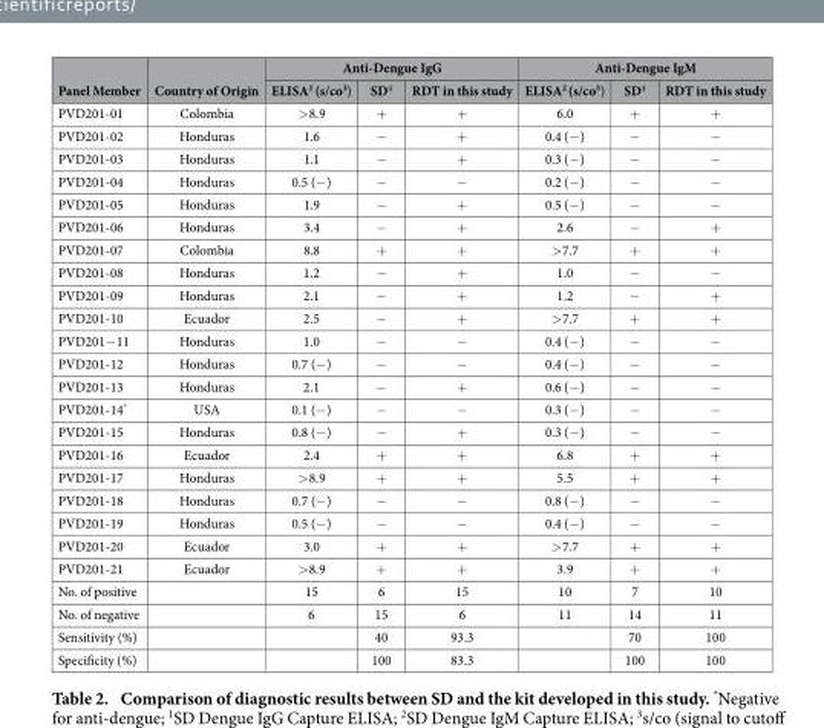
<table><thead><tr><td rowspan="2">Panel Member</td><td rowspan="2">Country of Origin</td><td colspan="3">Anti-Dengue IgG</td><td colspan="3">Anti-Dengue IgM</td></tr><tr><td>ELISA<sup>1</sup> (s/co<sup>3</sup>)</td><td>SD<sup>4</sup></td><td>RDT in this study</td><td>ELISA<sup>2</sup> (s/co<sup>3</sup>)</td><td>SD<sup>4</sup></td><td>RDT in this study</td></tr></thead><tbody><tr><td>PVD201-01</td><td>Colombia</td><td>&gt; 8.9</td><td>+</td><td>+</td><td>6.0</td><td>+</td><td>+</td></tr><tr><td>PVD201-02</td><td>Honduras</td><td>1.6</td><td>−</td><td>+</td><td>0.4 (− )</td><td>−</td><td>−</td></tr><tr><td>PVD201-03</td><td>Honduras</td><td>1.1</td><td>−</td><td>+</td><td>0.3 (− )</td><td>−</td><td>−</td></tr><tr><td>PVD201-04</td><td>Honduras</td><td>0.5 (− )</td><td>−</td><td>−</td><td>0.2 (− )</td><td>−</td><td>−</td></tr><tr><td>PVD201-05</td><td>Honduras</td><td>1.9</td><td>−</td><td>+</td><td>0.5 (− )</td><td>−</td><td>−</td></tr><tr><td>PVD201-06</td><td>Honduras</td><td>3.4</td><td>−</td><td>+</td><td>2.6</td><td>−</td><td>+</td></tr><tr><td>PVD201-07</td><td>Colombia</td><td>8.8</td><td>+</td><td>+</td><td>&gt; 7.7</td><td>+</td><td>+</td></tr><tr><td>PVD201-08</td><td>Honduras</td><td>1.2</td><td>−</td><td>+</td><td>1.0</td><td>−</td><td>−</td></tr><tr><td>PVD201-09</td><td>Honduras</td><td>2.1</td><td>−</td><td>+</td><td>1.2</td><td>−</td><td>+</td></tr><tr><td>PVD201-10</td><td>Ecuador</td><td>2.5</td><td>−</td><td>+</td><td>&gt; 7.7</td><td>+</td><td>+</td></tr><tr><td>PVD201− 11</td><td>Honduras</td><td>1.0</td><td>−</td><td>−</td><td>0.4 (− )</td><td>−</td><td>−</td></tr><tr><td>PVD201-12</td><td>Honduras</td><td>0.7 (− )</td><td>−</td><td>−</td><td>0.4 (− )</td><td>−</td><td>−</td></tr><tr><td>PVD201-13</td><td>Honduras</td><td>2.1</td><td>−</td><td>+</td><td>0.6 (− )</td><td>−</td><td>−</td></tr><tr><td>PVD201-14*</td><td>USA</td><td>0.1 (− )</td><td>−</td><td>−</td><td>0.3 (− )</td><td>−</td><td>−</td></tr><tr><td>PVD201-15</td><td>Honduras</td><td>0.8 (− )</td><td>−</td><td>+</td><td>0.3 (− )</td><td>−</td><td>−</td></tr><tr><td>PVD201-16</td><td>Ecuador</td><td>2.4</td><td>+</td><td>+</td><td>6.8</td><td>+</td><td>+</td></tr><tr><td>PVD201-17</td><td>Honduras</td><td>&gt; 8.9</td><td>+</td><td>+</td><td>5.5</td><td>+</td><td>+</td></tr><tr><td>PVD201-18</td><td>Honduras</td><td>0.7 (− )</td><td>−</td><td>−</td><td>0.8 (− )</td><td>−</td><td>−</td></tr><tr><td>PVD201-19</td><td>Honduras</td><td>0.5 (− )</td><td>−</td><td>−</td><td>0.4 (− )</td><td>−</td><td>−</td></tr><tr><td>PVD201-20</td><td>Ecuador</td><td>3.0</td><td>+</td><td>+</td><td>&gt; 7.7</td><td>+</td><td>+</td></tr><tr><td>PVD201-21</td><td>Ecuador</td><td>&gt; 8.9</td><td>+</td><td>+</td><td>3.9</td><td>+</td><td>+</td></tr><tr><td>No. of positive</td><td></td><td>15</td><td>6</td><td>15</td><td>10</td><td>7</td><td>10</td></tr><tr><td>No. of negative</td><td></td><td>6</td><td>15</td><td>6</td><td>11</td><td>14</td><td>11</td></tr><tr><td>Sensitivity (%)</td><td></td><td></td><td>40</td><td>93.3</td><td></td><td>70</td><td>100</td></tr><tr><td>Specificity (%)</td><td></td><td></td><td>100</td><td>83.3</td><td></td><td>100</td><td>100</td></tr></tbody></table>